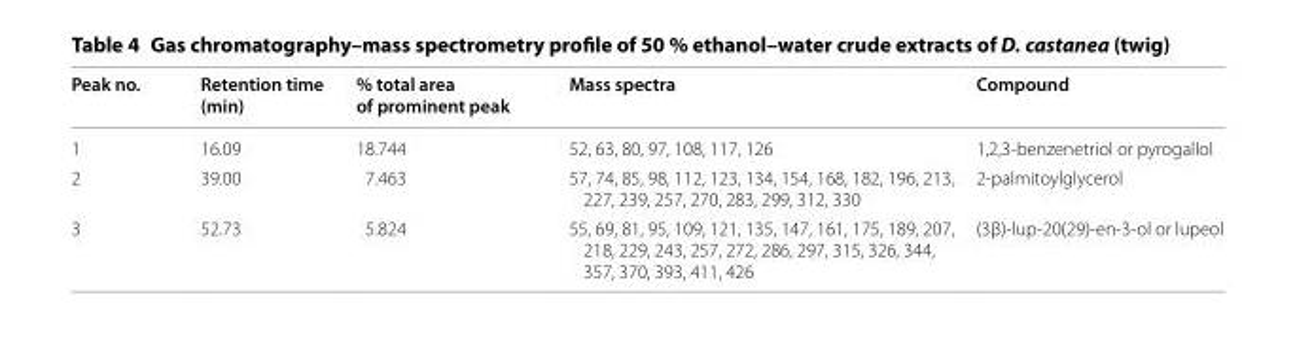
<table><thead><tr><td>Peak no.</td><td>Retention time (min)</td><td>% total area of prominent peak</td><td>Mass spectra</td><td>Compound</td></tr></thead><tbody><tr><td>1</td><td>16.09</td><td>18.744</td><td>52, 63, 80, 97, 108, 117, 126</td><td>1,2,3-benzenetriol or pyrogallol</td></tr><tr><td>2</td><td>39.00</td><td>7.463</td><td>57, 74, 85, 98, 112, 123, 134, 154, 168, 182, 196, 213, 227, 239, 257, 270, 283, 299, 312, 330</td><td>2-palmitoylglycerol</td></tr><tr><td>3</td><td>52.73</td><td>5.824</td><td>55, 69, 81, 95, 109, 121, 135, 147, 161, 175, 189, 207, 218, 229, 243, 257, 272, 286, 297, 315, 326, 344, 357, 370, 393, 411, 426</td><td>(3β)-lup-20(29)-en-3-ol or lupeol</td></tr></tbody></table>